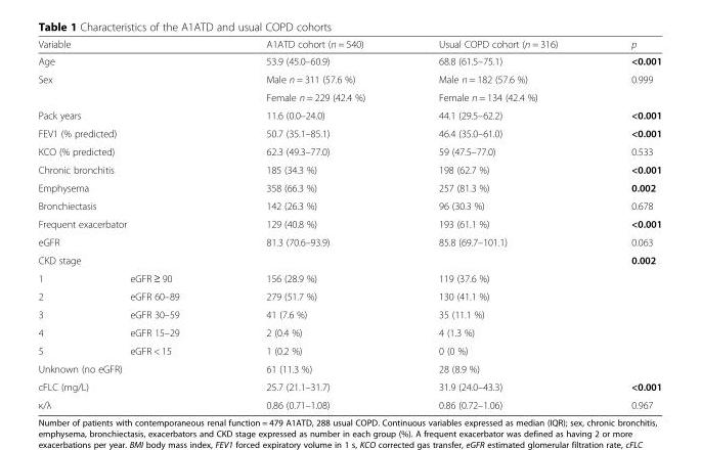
<table><thead><tr><td colspan="2">Variable</td><td>A1ATD cohort (n = 540)</td><td>Usual COPD cohort (n = 316)</td><td>p</td></tr></thead><tbody><tr><td colspan="2">Age</td><td>53.9 (45.0–60.9)</td><td>68.8 (61.5–75.1)</td><td>&lt;0.001</td></tr><tr><td rowspan="2" colspan="2">Sex</td><td>Male n = 311 (57.6 %)</td><td>Male n = 182 (57.6 %)</td><td rowspan="2">0.999</td></tr><tr><td>Female n = 229 (42.4 %)</td><td>Female n = 134 (42.4 %)</td></tr><tr><td colspan="2">Pack years</td><td>11.6 (0.0–24.0)</td><td>44.1 (29.5–62.2)</td><td>&lt;0.001</td></tr><tr><td colspan="2">FEV1 (% predicted)</td><td>50.7 (35.1–85.1)</td><td>46.4 (35.0–61.0)</td><td>&lt;0.001</td></tr><tr><td colspan="2">KCO (% predicted)</td><td>62.3 (49.3–77.0)</td><td>59 (47.5–77.0)</td><td>0.533</td></tr><tr><td colspan="2">Chronic bronchitis</td><td>185 (34.3 %)</td><td>198 (62.7 %)</td><td>&lt;0.001</td></tr><tr><td colspan="2">Emphysema</td><td>358 (66.3 %)</td><td>257 (81.3 %)</td><td>0.002</td></tr><tr><td colspan="2">Bronchiectasis</td><td>142 (26.3 %)</td><td>96 (30.3 %)</td><td>0.678</td></tr><tr><td colspan="2">Frequent exacerbator</td><td>129 (40.8 %)</td><td>193 (61.1 %)</td><td>&lt;0.001</td></tr><tr><td colspan="2">eGFR</td><td>81.3 (70.6–93.9)</td><td>85.8 (69.7–101.1)</td><td>0.063</td></tr><tr><td colspan="4">CKD stage</td><td rowspan="7">0.002</td></tr><tr><td>1</td><td>eGFR ≥ 90</td><td>156 (28.9 %)</td><td>119 (37.6 %)</td></tr><tr><td>2</td><td>eGFR 60–89</td><td>279 (51.7 %)</td><td>130 (41.1 %)</td></tr><tr><td>3</td><td>eGFR 30–59</td><td>41 (7.6 %)</td><td>35 (11.1 %)</td></tr><tr><td>4</td><td>eGFR 15–29</td><td>2 (0.4 %)</td><td>4 (1.3 %)</td></tr><tr><td>5</td><td>eGFR &lt; 15</td><td>1 (0.2 %)</td><td>0 (0 %)</td></tr><tr><td colspan="2">Unknown (no eGFR)</td><td>61 (11.3 %)</td><td>28 (8.9 %)</td></tr><tr><td colspan="2">cFLC (mg/L)</td><td>25.7 (21.1–31.7)</td><td>31.9 (24.0–43.3)</td><td>&lt;0.001</td></tr><tr><td colspan="2">κ/λ</td><td>0.86 (0.71–1.08)</td><td>0.86 (0.72–1.06)</td><td>0.967</td></tr></tbody></table>